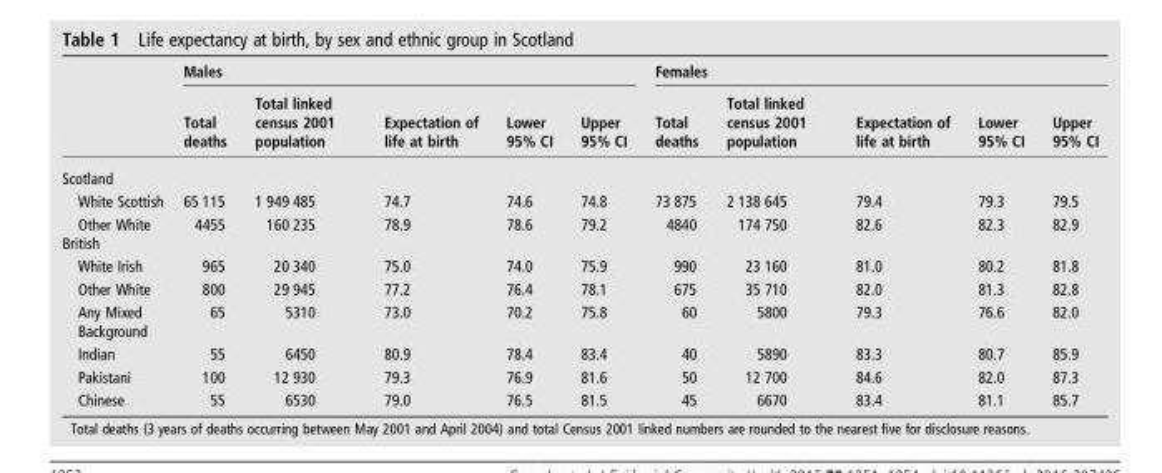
<table><thead><tr><td rowspan="2"></td><td colspan="5">Males</td><td colspan="5">Females</td></tr><tr><td>Total deaths</td><td>Total linked census 2001 population</td><td>Expectation of life at birth</td><td>Lower 95% CI</td><td>Upper 95% CI</td><td>Total deaths</td><td>Total linked census 2001 population</td><td>Expectation of life at birth</td><td>Lower 95% CI</td><td>Upper 95% CI</td></tr></thead><tbody><tr><td colspan="11">Scotland</td></tr><tr><td>White Scottish</td><td>65 115</td><td>1 949 485</td><td>74.7</td><td>74.6</td><td>74.8</td><td>73 875</td><td>2 138 645</td><td>79.4</td><td>79.3</td><td>79.5</td></tr><tr><td>Other White British</td><td>4455</td><td>160 235</td><td>78.9</td><td>78.6</td><td>79.2</td><td>4840</td><td>174 750</td><td>82.6</td><td>82.3</td><td>82.9</td></tr><tr><td>White Irish</td><td>965</td><td>20 340</td><td>75.0</td><td>74.0</td><td>75.9</td><td>990</td><td>23 160</td><td>81.0</td><td>80.2</td><td>81.8</td></tr><tr><td>Other White</td><td>800</td><td>29 945</td><td>77.2</td><td>76.4</td><td>78.1</td><td>675</td><td>35 710</td><td>82.0</td><td>81.3</td><td>82.8</td></tr><tr><td>Any Mixed Background</td><td>65</td><td>5310</td><td>73.0</td><td>70.2</td><td>75.8</td><td>60</td><td>5800</td><td>79.3</td><td>76.6</td><td>82.0</td></tr><tr><td>Indian</td><td>55</td><td>6450</td><td>80.9</td><td>78.4</td><td>83.4</td><td>40</td><td>5890</td><td>83.3</td><td>80.7</td><td>85.9</td></tr><tr><td>Pakistani</td><td>100</td><td>12 930</td><td>79.3</td><td>76.9</td><td>81.6</td><td>50</td><td>12 700</td><td>84.6</td><td>82.0</td><td>87.3</td></tr><tr><td>Chinese</td><td>55</td><td>6530</td><td>79.0</td><td>76.5</td><td>81.5</td><td>45</td><td>6670</td><td>83.4</td><td>81.1</td><td>85.7</td></tr></tbody></table>